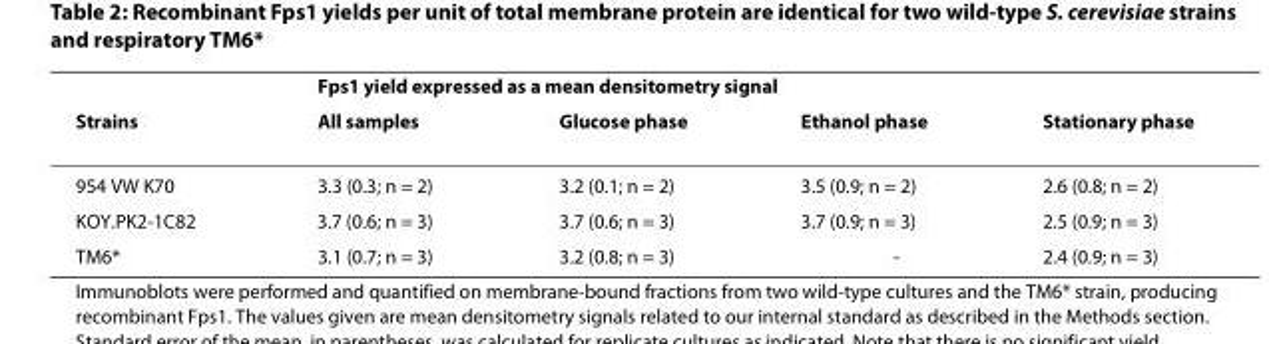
<table><thead><tr><td rowspan="2">Strains</td><td colspan="4">Fps1 yield expressed as a mean densitometry signal</td></tr><tr><td>All samples</td><td>Glucose phase</td><td>Ethanol phase</td><td>Stationary phase</td></tr></thead><tbody><tr><td>954 VW K70</td><td>3.3 (0.3; n = 2)</td><td>3.2 (0.1; n = 2)</td><td>3.5 (0.9; n = 2)</td><td>2.6 (0.8; n = 2)</td></tr><tr><td>KOY.PK2-1C82</td><td>3.7 (0.6; n = 3)</td><td>3.7 (0.6; n = 3)</td><td>3.7 (0.9; n = 3)</td><td>2.5 (0.9; n = 3)</td></tr><tr><td>TM6*</td><td>3.1 (0.7; n = 3)</td><td>3.2 (0.8; n = 3)</td><td>-</td><td>2.4 (0.9; n = 3)</td></tr></tbody></table>